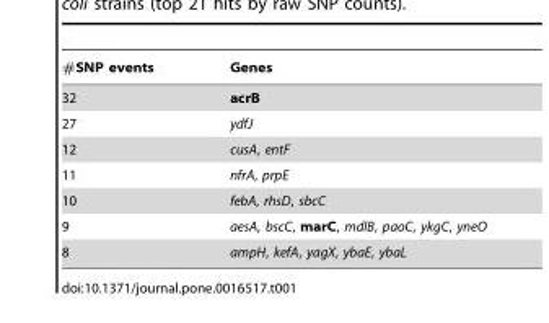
<table><thead><tr><td>#SNP events</td><td>Genes</td></tr></thead><tbody><tr><td>32</td><td>acrB</td></tr><tr><td>27</td><td>ydfJ</td></tr><tr><td>12</td><td>cusA, entF</td></tr><tr><td>11</td><td>nfrA, prpE</td></tr><tr><td>10</td><td>febA, rhsD, sbcC</td></tr><tr><td>9</td><td>aesA, bscC, marC, mdlB, paoC, ykgC, yneO</td></tr><tr><td>8</td><td>ampH, kefA, yagX, ybaE, ybaL</td></tr></tbody></table>